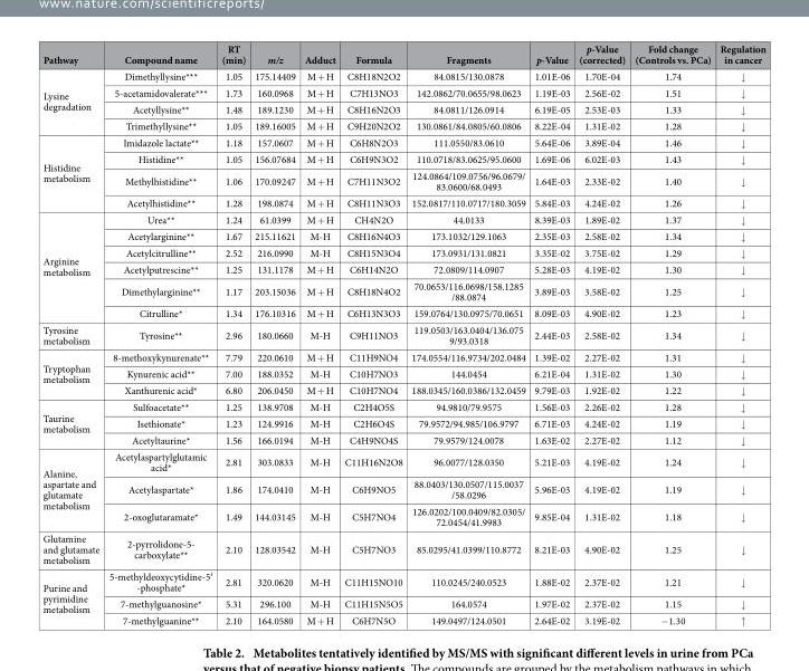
<table><thead><tr><td>Pathway</td><td>Compound name</td><td>RT (min)</td><td>m/z</td><td>Adduct</td><td>Formula</td><td>Fragments</td><td>p-Value</td><td>p-Value (corrected)</td><td>Fold change (Controls vs. PCa)</td><td>Regulation in cancer</td></tr></thead><tbody><tr><td rowspan="4">Lysine degradation</td><td>Dimethyllysine***</td><td>1.05</td><td>175.14409</td><td>M + H</td><td>C8H18N2O2</td><td>84.0815/130.0878</td><td>1.01E-06</td><td>1.70E-04</td><td>1.74</td><td>↓</td></tr><tr><td>5-acetamidovalerate***</td><td>1.73</td><td>160.0968</td><td>M + H</td><td>C7H13NO3</td><td>142.0862/70.0655/98.0623</td><td>1.19E-03</td><td>2.56E-02</td><td>1.51</td><td>↓</td></tr><tr><td>Acetyllysine**</td><td>1.48</td><td>189.1230</td><td>M + H</td><td>C8H16N2O3</td><td>84.0811/126.0914</td><td>6.19E-05</td><td>2.53E-03</td><td>1.33</td><td>↓</td></tr><tr><td>Trimethyllysine**</td><td>1.05</td><td>189.16005</td><td>M + H</td><td>C9H20N2O2</td><td>130.0861/84.0805/60.0806</td><td>8.22E-04</td><td>1.31E-02</td><td>1.28</td><td>↓</td></tr><tr><td rowspan="4">Histidine metabolism</td><td>Imidazole lactate**</td><td>1.18</td><td>157.0607</td><td>M + H</td><td>C6H8N2O3</td><td>111.0550/83.0610</td><td>5.64E-06</td><td>3.89E-04</td><td>1.46</td><td>↓</td></tr><tr><td>Histidine**</td><td>1.05</td><td>156.07684</td><td>M + H</td><td>C6H9N3O2</td><td>110.0718/83.0625/95.0600</td><td>1.69E-06</td><td>6.02E-03</td><td>1.43</td><td>↓</td></tr><tr><td>Methylhistidine**</td><td>1.06</td><td>170.09247</td><td>M + H</td><td>C7H11N3O2</td><td>124.0864/109.0756/96.0679/ 83.0600/68.0493</td><td>1.64E-03</td><td>2.33E-02</td><td>1.40</td><td>↓</td></tr><tr><td>Acetylhistidine**</td><td>1.28</td><td>198.0874</td><td>M + H</td><td>C8H11N3O3</td><td>152.0817/110.0717/180.3059</td><td>5.84E-03</td><td>4.24E-02</td><td>1.26</td><td>↓</td></tr><tr><td rowspan="6">Arginine metabolism</td><td>Urea**</td><td>1.24</td><td>61.0399</td><td>M + H</td><td>CH4N2O</td><td>44.0133</td><td>8.39E-03</td><td>1.89E-02</td><td>1.37</td><td>↓</td></tr><tr><td>Acetylarginine**</td><td>1.67</td><td>215.11621</td><td>M-H</td><td>C8H16N4O3</td><td>173.1032/129.1063</td><td>2.35E-03</td><td>2.58E-02</td><td>1.34</td><td>↓</td></tr><tr><td>Acetylcitrulline**</td><td>2.52</td><td>216.0990</td><td>M-H</td><td>C8H15N3O4</td><td>173.0931/131.0821</td><td>3.35E-02</td><td>3.75E-02</td><td>1.29</td><td>↓</td></tr><tr><td>Acetylputrescine**</td><td>1.25</td><td>131.1178</td><td>M + H</td><td>C6H14N2O</td><td>72.0809/114.0907</td><td>5.28E-03</td><td>4.19E-02</td><td>1.30</td><td>↓</td></tr><tr><td>Dimethylarginine**</td><td>1.17</td><td>203.15036</td><td>M + H</td><td>C8H18N4O2</td><td>70.0653/116.0698/158.1285 /88.0874</td><td>3.89E-03</td><td>3.58E-02</td><td>1.25</td><td>↓</td></tr><tr><td>Citrulline*</td><td>1.34</td><td>176.10316</td><td>M + H</td><td>C6H13N3O3</td><td>159.0764/130.0975/70.0651</td><td>8.09E-03</td><td>4.90E-02</td><td>1.23</td><td>↓</td></tr><tr><td>Tyrosine metabolism</td><td>Tyrosine**</td><td>2.96</td><td>180.0660</td><td>M-H</td><td>C9H11NO3</td><td>119.0503/163.0404/136.075 9/93.0318</td><td>2.44E-03</td><td>2.58E-02</td><td>1.34</td><td>↓</td></tr><tr><td rowspan="3">Tryptophan metabolism</td><td>8-methoxykynurenate**</td><td>7.79</td><td>220.0610</td><td>M + H</td><td>C11H9NO4</td><td>174.0554/116.9734/202.0484</td><td>1.39E-02</td><td>2.27E-02</td><td>1.31</td><td>↓</td></tr><tr><td>Kynurenic acid**</td><td>7.00</td><td>188.0352</td><td>M-H</td><td>C10H7NO3</td><td>144.0454</td><td>6.21E-04</td><td>1.31E-02</td><td>1.30</td><td>↓</td></tr><tr><td>Xanthurenic acid*</td><td>6.80</td><td>206.0450</td><td>M + H</td><td>C10H7NO4</td><td>188.0345/160.0386/132.0459</td><td>9.79E-03</td><td>1.92E-02</td><td>1.22</td><td>↓</td></tr><tr><td rowspan="3">Taurine metabolism</td><td>Sulfoacetate**</td><td>1.25</td><td>138.9708</td><td>M-H</td><td>C2H4O5S</td><td>94.9810/79.9575</td><td>1.56E-03</td><td>2.26E-02</td><td>1.28</td><td>↓</td></tr><tr><td>Isethionate*</td><td>1.23</td><td>124.9916</td><td>M-H</td><td>C2H6O4S</td><td>79.9572/94.985/106.9797</td><td>6.71E-03</td><td>4.24E-02</td><td>1.19</td><td>↓</td></tr><tr><td>Acetyltaurine*</td><td>1.56</td><td>166.0194</td><td>M-H</td><td>C4H9NO4S</td><td>79.9579/124.0078</td><td>1.63E-02</td><td>2.27E-02</td><td>1.12</td><td>↓</td></tr><tr><td rowspan="3">Alanine, aspartate and glutamate metabolism</td><td>Acetylaspartylglutamic acid*</td><td>2.81</td><td>303.0833</td><td>M-H</td><td>C11H16N2O8</td><td>96.0077/128.0350</td><td>5.21E-03</td><td>4.19E-02</td><td>1.24</td><td>↓</td></tr><tr><td>Acetylaspartate*</td><td>1.86</td><td>174.0410</td><td>M-H</td><td>C6H9NO5</td><td>88.0403/130.0507/115.0037 /58.0296</td><td>5.96E-03</td><td>4.19E-02</td><td>1.19</td><td>↓</td></tr><tr><td>2-oxoglutaramate*</td><td>1.49</td><td>144.03145</td><td>M-H</td><td>C5H7NO4</td><td>126.0202/100.0409/82.0305/ 72.0454/41.9983</td><td>9.85E-04</td><td>1.31E-02</td><td>1.18</td><td>↓</td></tr><tr><td>Glutamine and glutamate metabolism</td><td>2-pyrrolidone-5- carboxylate**</td><td>2.10</td><td>128.03542</td><td>M-H</td><td>C5H7NO3</td><td>85.0295/41.0399/110.8772</td><td>8.21E-03</td><td>4.90E-02</td><td>1.25</td><td>↓</td></tr><tr><td rowspan="3">Purine and pyrimidine metabolism</td><td>5-methyldeoxycytidine-5′ -phosphate*</td><td>2.81</td><td>320.0620</td><td>M-H</td><td>C11H15NO10</td><td>110.0245/240.0523</td><td>1.88E-02</td><td>2.37E-02</td><td>1.21</td><td>↓</td></tr><tr><td>7-methylguanosine*</td><td>5.31</td><td>296.100</td><td>M-H</td><td>C11H15N5O5</td><td>164.0574</td><td>1.97E-02</td><td>2.37E-02</td><td>1.15</td><td>↓</td></tr><tr><td>7-methylguanine**</td><td>2.10</td><td>164.0580</td><td>M + H</td><td>C6H7N5O</td><td>149.0497/124.0501</td><td>2.64E-02</td><td>3.19E-02</td><td>− 1.30</td><td>↑</td></tr></tbody></table>